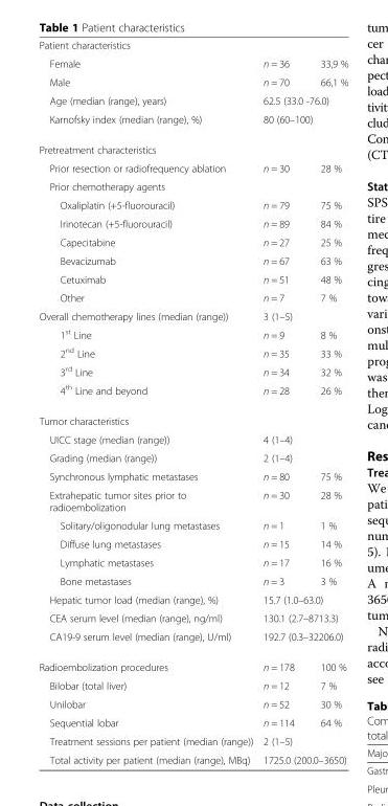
<table><tbody><tr><td colspan="3">Patient characteristics</td></tr><tr><td>Female</td><td>n = 36</td><td>33,9 %</td></tr><tr><td>Male</td><td>n = 70</td><td>66,1 %</td></tr><tr><td>Age (median (range), years)</td><td colspan="2">62.5 (33.0 -76.0)</td></tr><tr><td>Karnofsky index (median (range), %)</td><td>80 (60–100)</td><td></td></tr><tr><td colspan="3">Pretreatment characteristics</td></tr><tr><td>Prior resection or radiofrequency ablation</td><td>n = 30</td><td>28 %</td></tr><tr><td colspan="3">Prior chemotherapy agents</td></tr><tr><td>Oxaliplatin (+5-fluorouracil)</td><td>n = 79</td><td>75 %</td></tr><tr><td>Irinotecan (+5-fluorouracil)</td><td>n = 89</td><td>84 %</td></tr><tr><td>Capecitabine</td><td>n = 27</td><td>25 %</td></tr><tr><td>Bevacizumab</td><td>n = 67</td><td>63 %</td></tr><tr><td>Cetuximab</td><td>n = 51</td><td>48 %</td></tr><tr><td>Other</td><td>n = 7</td><td>7 %</td></tr><tr><td>Overall chemotherapy lines (median (range))</td><td>3 (1–5)</td><td></td></tr><tr><td>1<sup>st</sup> Line</td><td>n = 9</td><td>8 %</td></tr><tr><td>2<sup>nd</sup> Line</td><td>n = 35</td><td>33 %</td></tr><tr><td>3<sup>rd</sup> Line</td><td>n = 34</td><td>32 %</td></tr><tr><td>4<sup>th</sup> Line and beyond</td><td>n = 28</td><td>26 %</td></tr><tr><td colspan="3">Tumor characteristics</td></tr><tr><td>UICC stage (median (range))</td><td>4 (1–4)</td><td></td></tr><tr><td>Grading (median (range))</td><td>2 (1–4)</td><td></td></tr><tr><td>Synchronous lymphatic metastases</td><td>n = 80</td><td>75 %</td></tr><tr><td>Extrahepatic tumor sites prior to radioembolization</td><td>n = 30</td><td>28 %</td></tr><tr><td>Solitary/oligonodular lung metastases</td><td>n = 1</td><td>1 %</td></tr><tr><td>Diffuse lung metastases</td><td>n = 15</td><td>14 %</td></tr><tr><td>Lymphatic metastases</td><td>n = 17</td><td>16 %</td></tr><tr><td>Bone metastases</td><td>n = 3</td><td>3 %</td></tr><tr><td>Hepatic tumor load (median (range), %)</td><td colspan="2">15.7 (1.0–63.0)</td></tr><tr><td>CEA serum level (median (range), ng/ml)</td><td colspan="2">130.1 (2.7–8713.3)</td></tr><tr><td>CA19-9 serum level (median (range), U/ml)</td><td colspan="2">192.7 (0.3–32206.0)</td></tr><tr><td>Radioembolization procedures</td><td>n = 178</td><td>100 %</td></tr><tr><td>Bilobar (total liver)</td><td>n = 12</td><td>7 %</td></tr><tr><td>Unilobar</td><td>n = 52</td><td>30 %</td></tr><tr><td>Sequential lobar</td><td>n = 114</td><td>64 %</td></tr><tr><td>Treatment sessions per patient (median (range))</td><td>2 (1–5)</td><td></td></tr><tr><td>Total activity per patient (median (range), MBq)</td><td colspan="2">1725.0 (200.0–3650)</td></tr></tbody></table>